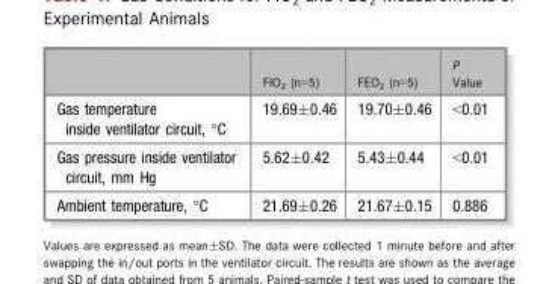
<table><thead><tr><td></td><td>FIO<sub>2</sub> (n=5)</td><td>FEO<sub>2</sub> (n=5)</td><td>P Value</td></tr></thead><tbody><tr><td>Gas temperature inside ventilator circuit, °C</td><td>19.69±0.46</td><td>19.70±0.46</td><td>&lt;0.01</td></tr><tr><td>Gas pressure inside ventilator circuit, mm Hg</td><td>5.62±0.42</td><td>5.43±0.44</td><td>&lt;0.01</td></tr><tr><td>Ambient temperature, °C</td><td>21.69±0.26</td><td>21.67±0.15</td><td>0.886</td></tr></tbody></table>